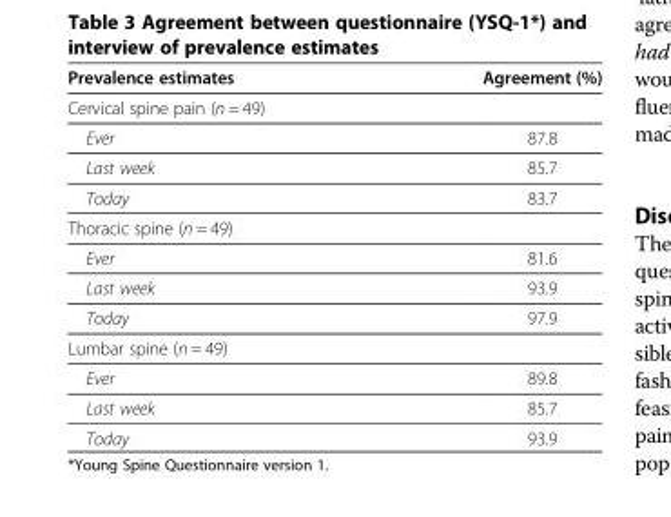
<table><thead><tr><td>Prevalence estimates</td><td>Agreement (%)</td></tr></thead><tbody><tr><td colspan="2">Cervical spine pain (n = 49)</td></tr><tr><td>Ever</td><td>87.8</td></tr><tr><td>Last week</td><td>85.7</td></tr><tr><td>Today</td><td>83.7</td></tr><tr><td colspan="2">Thoracic spine (n = 49)</td></tr><tr><td>Ever</td><td>81.6</td></tr><tr><td>Last week</td><td>93.9</td></tr><tr><td>Today</td><td>97.9</td></tr><tr><td colspan="2">Lumbar spine (n = 49)</td></tr><tr><td>Ever</td><td>89.8</td></tr><tr><td>Last week</td><td>85.7</td></tr><tr><td>Today</td><td>93.9</td></tr></tbody></table>